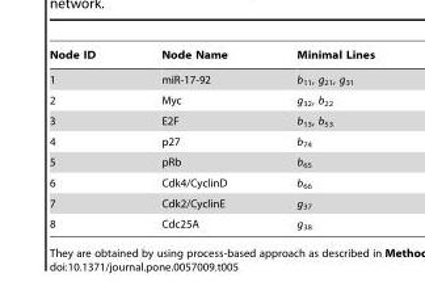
<table><thead><tr><td>Node ID</td><td>Node Name</td><td>Minimal Lines</td></tr></thead><tbody><tr><td>1</td><td>miR-17-92</td><td>b<sub>11</sub>, g<sub>21</sub>, g<sub>31</sub></td></tr><tr><td>2</td><td>Myc</td><td>g<sub>32</sub>, b<sub>22</sub></td></tr><tr><td>3</td><td>E2F</td><td>b<sub>13</sub>, b<sub>53</sub></td></tr><tr><td>4</td><td>p27</td><td>b<sub>74</sub></td></tr><tr><td>5</td><td>pRb</td><td>b<sub>65</sub></td></tr><tr><td>6</td><td>Cdk4/CyclinD</td><td>b<sub>66</sub></td></tr><tr><td>7</td><td>Cdk2/CyclinE</td><td>g<sub>37</sub></td></tr><tr><td>8</td><td>Cdc25A</td><td>g<sub>38</sub></td></tr></tbody></table>